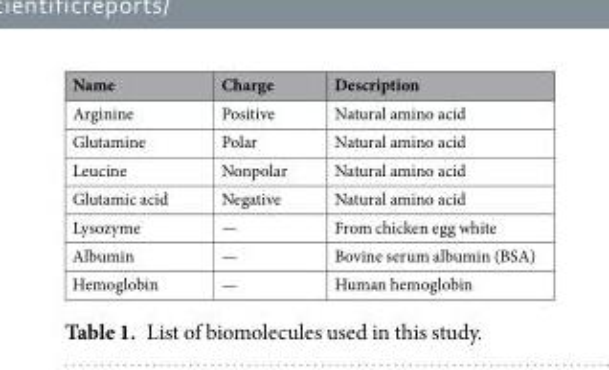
<table><thead><tr><td>Name</td><td>Charge</td><td>Description</td></tr></thead><tbody><tr><td>Arginine</td><td>Positive</td><td>Natural amino acid</td></tr><tr><td>Glutamine</td><td>Polar</td><td>Natural amino acid</td></tr><tr><td>Leucine</td><td>Nonpolar</td><td>Natural amino acid</td></tr><tr><td>Glutamic acid</td><td>Negative</td><td>Natural amino acid</td></tr><tr><td>Lysozyme</td><td>—</td><td>From chicken egg white</td></tr><tr><td>Albumin</td><td>—</td><td>Bovine serum albumin (BSA)</td></tr><tr><td>Hemoglobin</td><td>—</td><td>Human hemoglobin</td></tr></tbody></table>